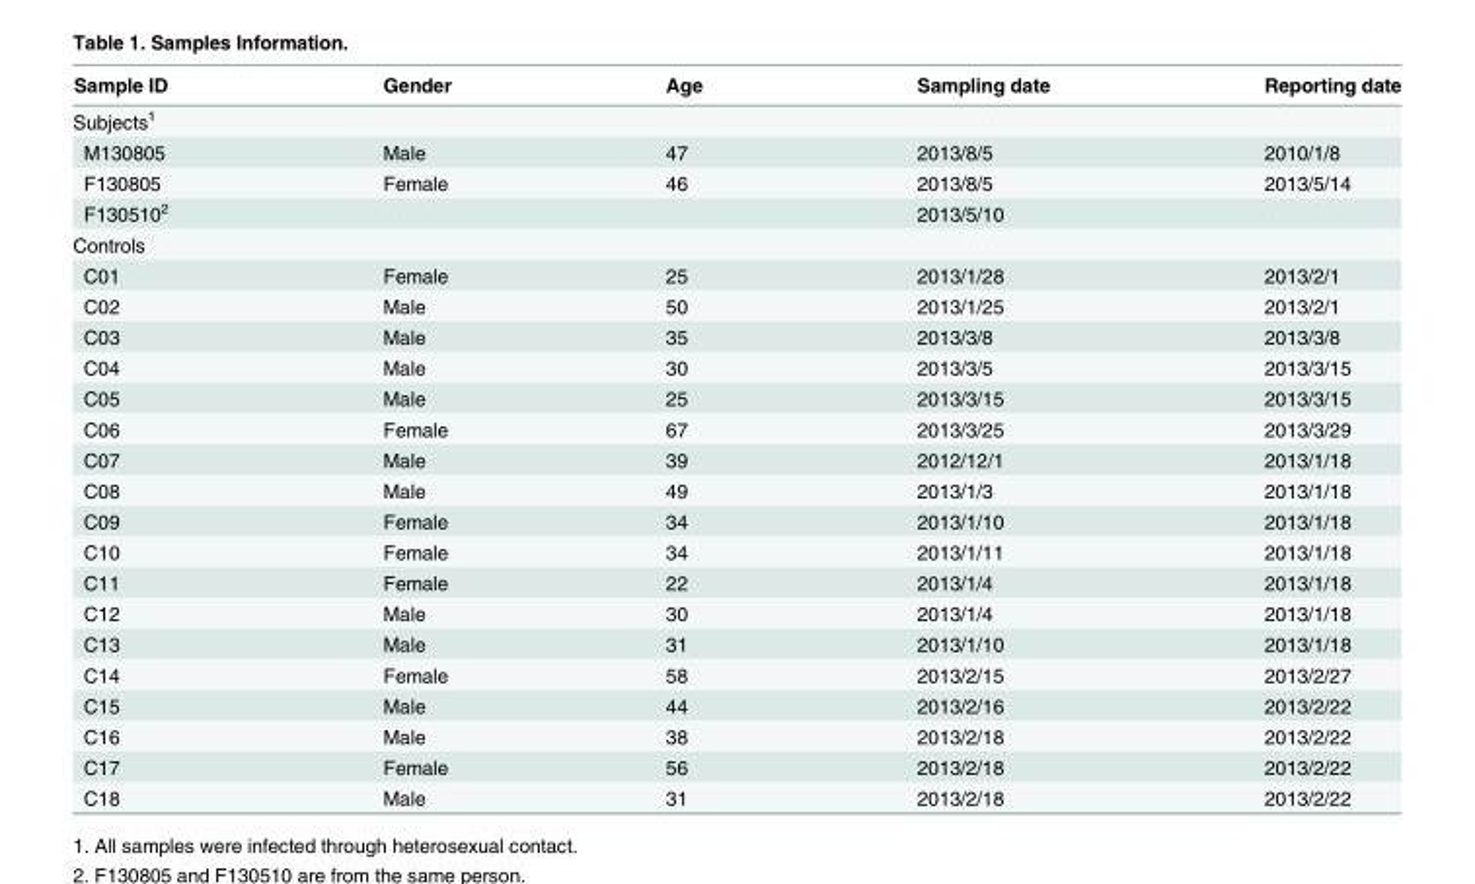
<table><thead><tr><td>Sample ID</td><td>Gender</td><td>Age</td><td>Sampling date</td><td>Reporting date</td></tr></thead><tbody><tr><td colspan="5">Subjects<sup>1</sup></td></tr><tr><td>M130805</td><td>Male</td><td>47</td><td>2013/8/5</td><td>2010/1/8</td></tr><tr><td>F130805</td><td>Female</td><td>46</td><td>2013/8/5</td><td>2013/5/14</td></tr><tr><td>F130510<sup>2</sup></td><td></td><td></td><td>2013/5/10</td><td></td></tr><tr><td colspan="5">Controls</td></tr><tr><td>C01</td><td>Female</td><td>25</td><td>2013/1/28</td><td>2013/2/1</td></tr><tr><td>C02</td><td>Male</td><td>50</td><td>2013/1/25</td><td>2013/2/1</td></tr><tr><td>C03</td><td>Male</td><td>35</td><td>2013/3/8</td><td>2013/3/8</td></tr><tr><td>C04</td><td>Male</td><td>30</td><td>2013/3/5</td><td>2013/3/15</td></tr><tr><td>C05</td><td>Male</td><td>25</td><td>2013/3/15</td><td>2013/3/15</td></tr><tr><td>C06</td><td>Female</td><td>67</td><td>2013/3/25</td><td>2013/3/29</td></tr><tr><td>C07</td><td>Male</td><td>39</td><td>2012/12/1</td><td>2013/1/18</td></tr><tr><td>C08</td><td>Male</td><td>49</td><td>2013/1/3</td><td>2013/1/18</td></tr><tr><td>C09</td><td>Female</td><td>34</td><td>2013/1/10</td><td>2013/1/18</td></tr><tr><td>C10</td><td>Female</td><td>34</td><td>2013/1/11</td><td>2013/1/18</td></tr><tr><td>C11</td><td>Female</td><td>22</td><td>2013/1/4</td><td>2013/1/18</td></tr><tr><td>C12</td><td>Male</td><td>30</td><td>2013/1/4</td><td>2013/1/18</td></tr><tr><td>C13</td><td>Male</td><td>31</td><td>2013/1/10</td><td>2013/1/18</td></tr><tr><td>C14</td><td>Female</td><td>58</td><td>2013/2/15</td><td>2013/2/27</td></tr><tr><td>C15</td><td>Male</td><td>44</td><td>2013/2/16</td><td>2013/2/22</td></tr><tr><td>C16</td><td>Male</td><td>38</td><td>2013/2/18</td><td>2013/2/22</td></tr><tr><td>C17</td><td>Female</td><td>56</td><td>2013/2/18</td><td>2013/2/22</td></tr><tr><td>C18</td><td>Male</td><td>31</td><td>2013/2/18</td><td>2013/2/22</td></tr></tbody></table>